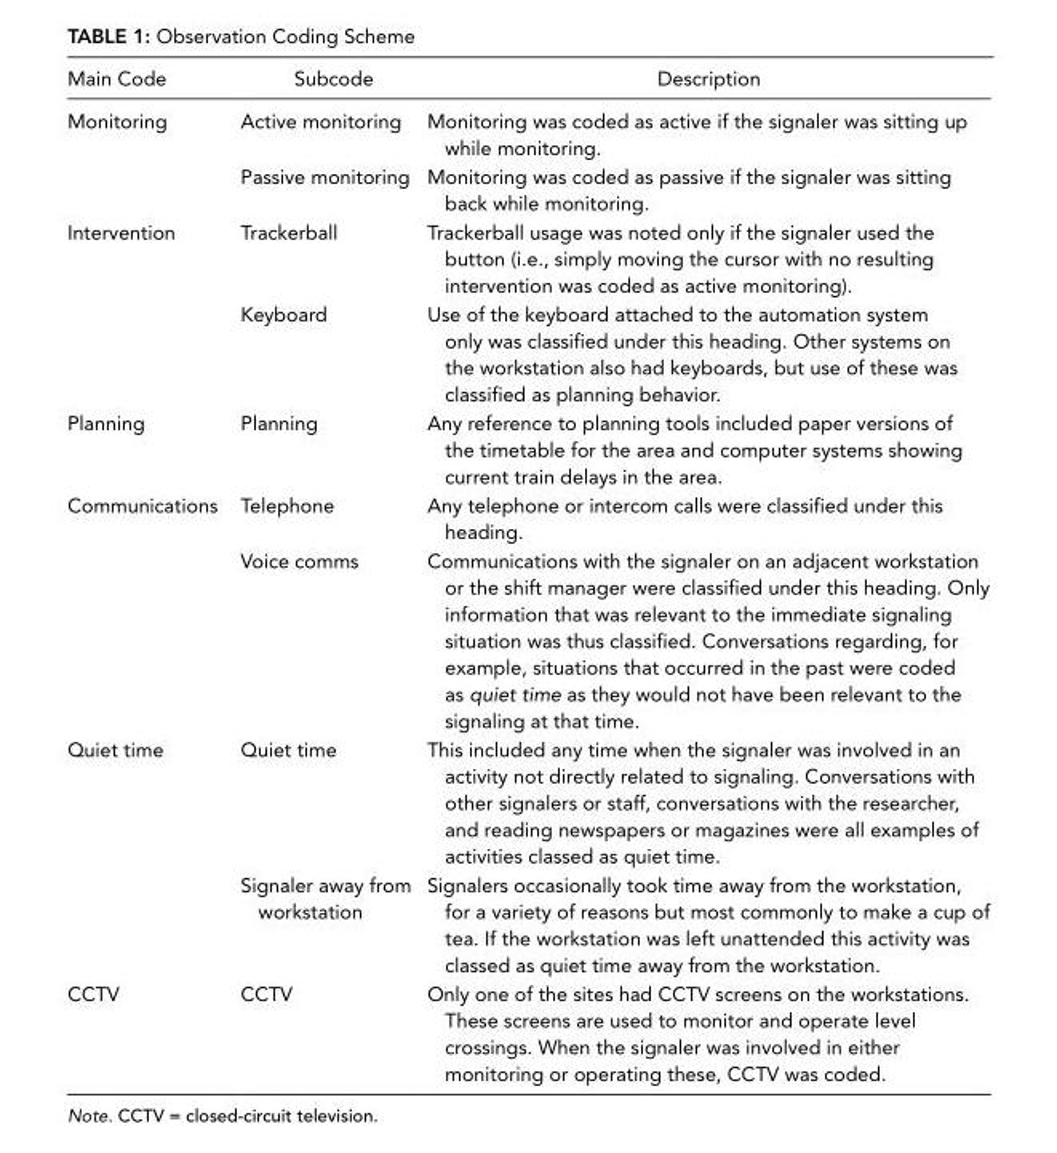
<table><thead><tr><td>Main Code</td><td>Subcode</td><td>Description</td></tr></thead><tbody><tr><td rowspan="2">Monitoring</td><td>Active monitoring</td><td>Monitoring was coded as active if the signaler was sitting up while monitoring.</td></tr><tr><td>Passive monitoring</td><td>Monitoring was coded as passive if the signaler was sitting back while monitoring.</td></tr><tr><td rowspan="2">Intervention</td><td>Trackerball</td><td>Trackerball usage was noted only if the signaler used the button (i.e., simply moving the cursor with no resulting intervention was coded as active monitoring).</td></tr><tr><td>Keyboard</td><td>Use of the keyboard attached to the automation system only was classified under this heading. Other systems on the workstation also had keyboards, but use of these was classified as planning behavior.</td></tr><tr><td>Planning</td><td>Planning</td><td>Any reference to planning tools included paper versions of the timetable for the area and computer systems showing current train delays in the area.</td></tr><tr><td rowspan="2">Communications</td><td>Telephone</td><td>Any telephone or intercom calls were classified under this heading.</td></tr><tr><td>Voice comms</td><td>Communications with the signaler on an adjacent workstation or the shift manager were classified under this heading. Only information that was relevant to the immediate signaling situation was thus classified. Conversations regarding, for example, situations that occurred in the past were coded as quiet time as they would not have been relevant to the signaling at that time.</td></tr><tr><td rowspan="2">Quiet time</td><td>Quiet time</td><td>This included any time when the signaler was involved in an activity not directly related to signaling. Conversations with other signalers or staff, conversations with the researcher, and reading newspapers or magazines were all examples of activities classed as quiet time.</td></tr><tr><td>Signaler away from workstation</td><td>Signalers occasionally took time away from the workstation, for a variety of reasons but most commonly to make a cup of tea. If the workstation was left unattended this activity was classed as quiet time away from the workstation.</td></tr><tr><td>CCTV</td><td>CCTV</td><td>Only one of the sites had CCTV screens on the workstations. These screens are used to monitor and operate level crossings. When the signaler was involved in either monitoring or operating these, CCTV was coded.</td></tr></tbody></table>